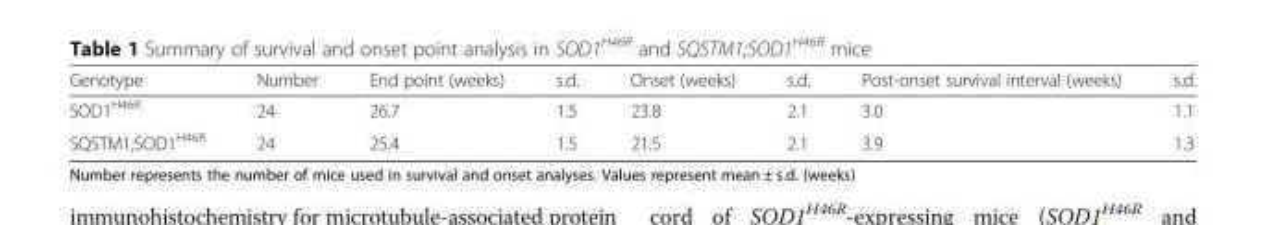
<table><thead><tr><td>Genotype</td><td>Number</td><td>End point (weeks)</td><td>s.d.</td><td>Onset (weeks)</td><td>s.d.</td><td>Post-onset survival interval (weeks)</td><td>s.d.</td></tr></thead><tbody><tr><td>SOD1<sup>H46R</sup></td><td>24</td><td>26.7</td><td>1.5</td><td>23.8</td><td>2.1</td><td>3.0</td><td>1.1</td></tr><tr><td>SQSTM1;SOD1<sup>H46R</sup></td><td>24</td><td>25.4</td><td>1.5</td><td>21.5</td><td>2.1</td><td>3.9</td><td>1.3</td></tr></tbody></table>